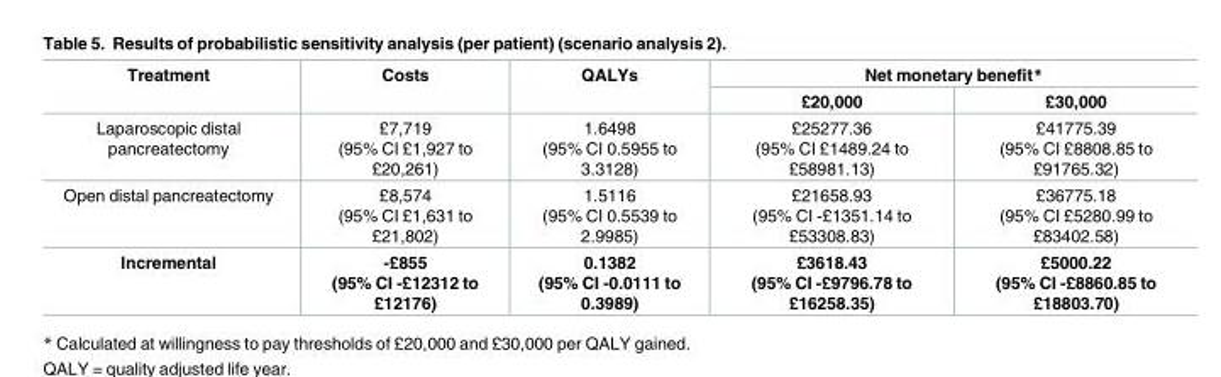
<table><thead><tr><td rowspan="2">Treatment</td><td rowspan="2">Costs</td><td rowspan="2">QALYs</td><td colspan="2">Net monetary benefit*</td></tr><tr><td>£20,000</td><td>£30,000</td></tr></thead><tbody><tr><td>Laparoscopic distal pancreatectomy</td><td>£7,719 (95% CI £1,927 to £20,261)</td><td>1.6498 (95% CI 0.5955 to 3.3128)</td><td>£25277.36 (95% CI £1489.24 to £58981.13)</td><td>£41775.39 (95% CI £8808.85 to £91765.32)</td></tr><tr><td>Open distal pancreatectomy</td><td>£8,574 (95% CI £1,631 to £21,802)</td><td>1.5116 (95% CI 0.5539 to 2.9985)</td><td>£21658.93 (95% CI -£1351.14 to £53308.83)</td><td>£36775.18 (95% CI £5280.99 to £83402.58)</td></tr><tr><td>Incremental</td><td>-£855 (95% CI -£12312 to £12176)</td><td>0.1382 (95% CI -0.0111 to 0.3989)</td><td>£3618.43 (95% CI -£9796.78 to £16258.35)</td><td>£5000.22 (95% CI -£8860.85 to £18803.70)</td></tr></tbody></table>